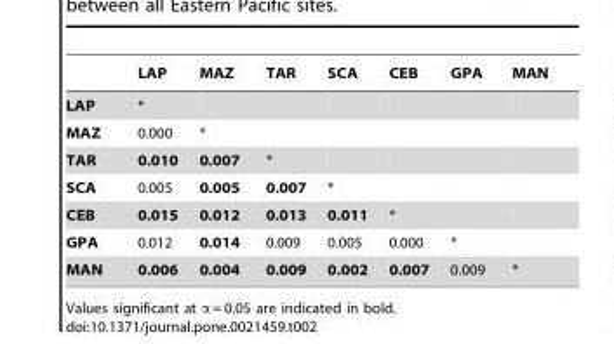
<table><thead><tr><td></td><td>LAP</td><td>MAZ</td><td>TAR</td><td>SCA</td><td>CEB</td><td>GPA</td><td>MAN</td></tr></thead><tbody><tr><td>LAP</td><td>*</td><td></td><td></td><td></td><td></td><td></td><td></td></tr><tr><td>MAZ</td><td>0.000</td><td>*</td><td></td><td></td><td></td><td></td><td></td></tr><tr><td>TAR</td><td>0.010</td><td>0.007</td><td>*</td><td></td><td></td><td></td><td></td></tr><tr><td>SCA</td><td>0.005</td><td>0.005</td><td>0.007</td><td>*</td><td></td><td></td><td></td></tr><tr><td>CEB</td><td>0.015</td><td>0.012</td><td>0.013</td><td>0.011</td><td>*</td><td></td><td></td></tr><tr><td>GPA</td><td>0.012</td><td>0.014</td><td>0.009</td><td>0.005</td><td>0.000</td><td>*</td><td></td></tr><tr><td>MAN</td><td>0.006</td><td>0.004</td><td>0.009</td><td>0.002</td><td>0.007</td><td>0.009</td><td>*</td></tr></tbody></table>